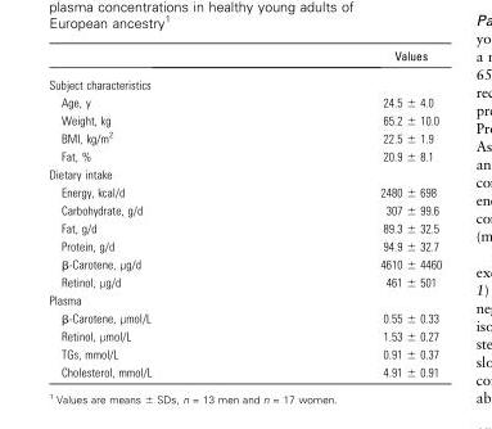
<table><thead><tr><td></td><td>Values</td></tr></thead><tbody><tr><td colspan="2">Subject characteristics</td></tr><tr><td>Age, y</td><td>24.5 ± 4.0</td></tr><tr><td>Weight, kg</td><td>65.2 ± 10.0</td></tr><tr><td>BMI, kg/m<sup>2</sup></td><td>22.5 ± 1.9</td></tr><tr><td>Fat, %</td><td>20.9 ± 8.1</td></tr><tr><td colspan="2">Dietary intake</td></tr><tr><td>Energy, kcal/d</td><td>2480 ± 698</td></tr><tr><td>Carbohydrate, g/d</td><td>307 ± 99.6</td></tr><tr><td>Fat, g/d</td><td>89.3 ± 32.5</td></tr><tr><td>Protein, g/d</td><td>94.9 ± 32.7</td></tr><tr><td>β-Carotene, μg/d</td><td>4610 ± 4460</td></tr><tr><td>Retinol, μg/d</td><td>461 ± 501</td></tr><tr><td colspan="2">Plasma</td></tr><tr><td>β-Carotene, μmol/L</td><td>0.55 ± 0.33</td></tr><tr><td>Retinol, μmol/L</td><td>1.53 ± 0.27</td></tr><tr><td>TGs, mmol/L</td><td>0.91 ± 0.37</td></tr><tr><td>Cholesterol, mmol/L</td><td>4.91 ± 0.91</td></tr></tbody></table>